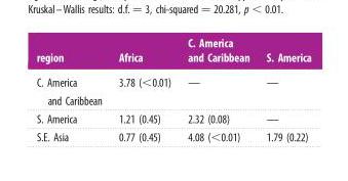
<table><thead><tr><td>region</td><td>Africa</td><td>C. America and Caribbean</td><td>S. America</td></tr></thead><tbody><tr><td>C. America and Caribbean</td><td>3.78 (&lt;0.01)</td><td>—</td><td>—</td></tr><tr><td>S. America</td><td>1.21 (0.45)</td><td>2.32 (0.08)</td><td>—</td></tr><tr><td>S.E. Asia</td><td>0.77 (0.45)</td><td>4.08 (&lt;0.01)</td><td>1.79 (0.22)</td></tr></tbody></table>